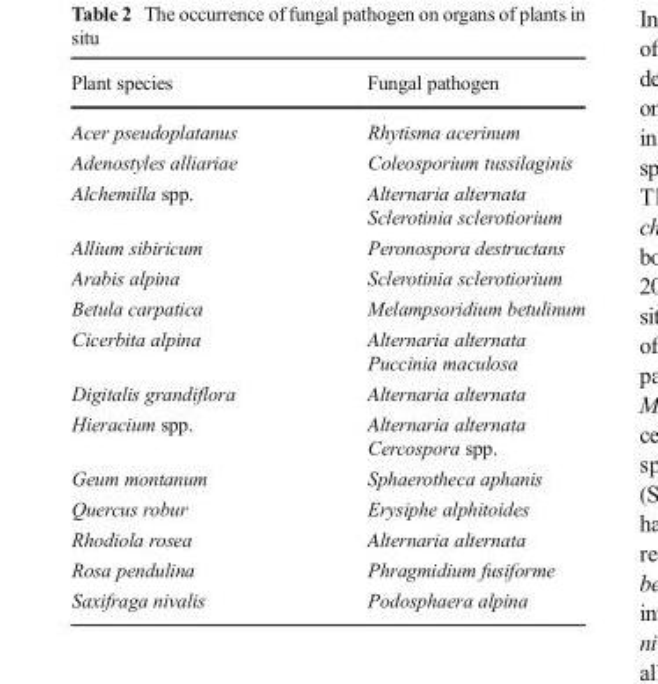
<table><thead><tr><td>Plant species</td><td>Fungal pathogen</td></tr></thead><tbody><tr><td>Acer pseudoplatanus</td><td>Rhytisma acerinum</td></tr><tr><td>Adenostyles alliariae</td><td>Coleosporium tussilaginis</td></tr><tr><td>Alchemilla spp.</td><td>Alternaria alternata Sclerotinia sclerotiorium</td></tr><tr><td>Allium sibiricum</td><td>Peronospora destructans</td></tr><tr><td>Arabis alpina</td><td>Sclerotinia sclerotiorium</td></tr><tr><td>Betula carpatica</td><td>Melampsoridium betulinum</td></tr><tr><td>Cicerbita alpina</td><td>Alternaria alternata Puccinia maculosa</td></tr><tr><td>Digitalis grandiflora</td><td>Alternaria alternata</td></tr><tr><td>Hieracium spp.</td><td>Alternaria alternata Cercospora spp.</td></tr><tr><td>Geum montanum</td><td>Sphaerotheca aphanis</td></tr><tr><td>Quercus robur</td><td>Erysiphe alphitoides</td></tr><tr><td>Rhodiola rosea</td><td>Alternaria alternata</td></tr><tr><td>Rosa pendulina</td><td>Phragmidium fusiforme</td></tr><tr><td>Saxifraga nivalis</td><td>Podosphaera alpina</td></tr></tbody></table>